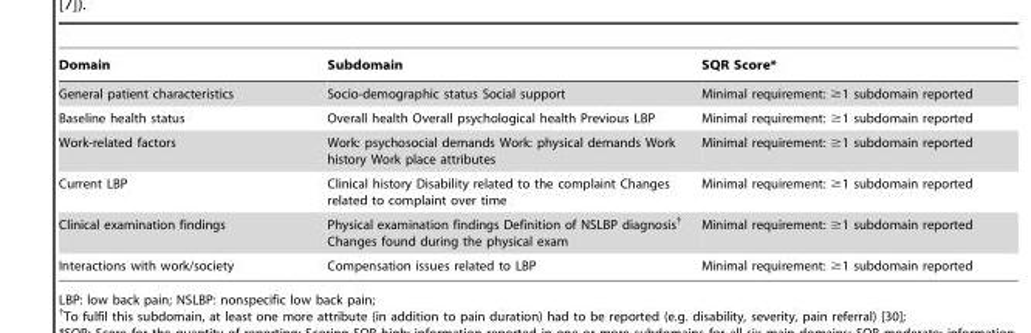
<table><thead><tr><td>Domain</td><td>Subdomain</td><td>SQR Score*</td></tr></thead><tbody><tr><td>General patient characteristics</td><td>Socio-demographic status Social support</td><td>Minimal requirement: ≥1 subdomain reported</td></tr><tr><td>Baseline health status</td><td>Overall health Overall psychological health Previous LBP</td><td>Minimal requirement: ≥1 subdomain reported</td></tr><tr><td>Work-related factors</td><td>Work: psychosocial demands Work: physical demands Work history Work place attributes</td><td>Minimal requirement: ≥1 subdomain reported</td></tr><tr><td>Current LBP</td><td>Clinical history Disability related to the complaint Changes related to complaint over time</td><td>Minimal requirement: ≥1 subdomain reported</td></tr><tr><td>Clinical examination findings</td><td>Physical examination findings Definition of NSLBP diagnosis† Changes found during the physical exam</td><td>Minimal requirement: ≥1 subdomain reported</td></tr><tr><td>Interactions with work/society</td><td>Compensation issues related to LBP</td><td>Minimal requirement: ≥1 subdomain reported</td></tr></tbody></table>